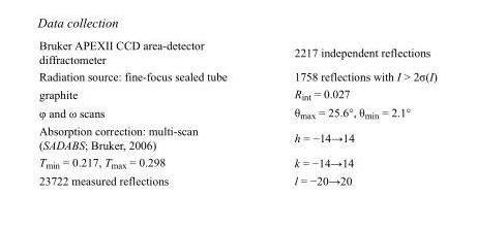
<table><tbody><tr><td>Bruker APEXII CCD area-detector diffractometer</td><td>2217 independent reflections</td></tr><tr><td>Radiation source: fine-focus sealed tube</td><td>1758 reflections with I &gt; 2σ(I)</td></tr><tr><td>graphite</td><td>R<sub>int</sub> = 0.027</td></tr><tr><td>φ and ω scans</td><td>θ<sub>max</sub> = 25.6°, θ<sub>min</sub> = 2.1°</td></tr><tr><td>Absorption correction: multi-scan (SADABS; Bruker, 2006)</td><td>h = −14→14</td></tr><tr><td>T<sub>min</sub> = 0.217, T<sub>max</sub> = 0.298</td><td>k = −14→14</td></tr><tr><td>23722 measured reflections</td><td>l = −20→20</td></tr></tbody></table>